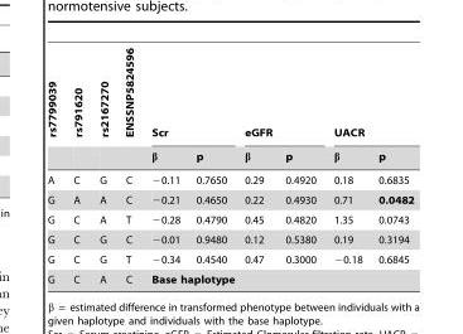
<table><thead><tr><td rowspan="2">rs7799039</td><td rowspan="2">rs791620</td><td rowspan="2">rs2167270</td><td rowspan="2">ENSSNP5824596</td><td colspan="2">Scr</td><td colspan="2">eGFR</td><td colspan="2">UACR</td></tr><tr><td>β</td><td>p</td><td>β</td><td>p</td><td>β</td><td>p</td></tr></thead><tbody><tr><td>A</td><td>C</td><td>G</td><td>C</td><td>−0.11</td><td>0.7650</td><td>0.29</td><td>0.4920</td><td>0.18</td><td>0.6835</td></tr><tr><td>G</td><td>A</td><td>A</td><td>C</td><td>−0.21</td><td>0.4650</td><td>0.22</td><td>0.4930</td><td>0.71</td><td>0.0482</td></tr><tr><td>G</td><td>C</td><td>A</td><td>T</td><td>−0.28</td><td>0.4790</td><td>0.45</td><td>0.4820</td><td>1.35</td><td>0.0743</td></tr><tr><td>G</td><td>C</td><td>G</td><td>C</td><td>−0.01</td><td>0.9480</td><td>0.12</td><td>0.5380</td><td>0.19</td><td>0.3194</td></tr><tr><td>G</td><td>C</td><td>G</td><td>T</td><td>−0.34</td><td>0.4540</td><td>0.47</td><td>0.3000</td><td>−0.18</td><td>0.6845</td></tr><tr><td>G</td><td>C</td><td>A</td><td>C</td><td colspan="6">Base haplotype</td></tr></tbody></table>